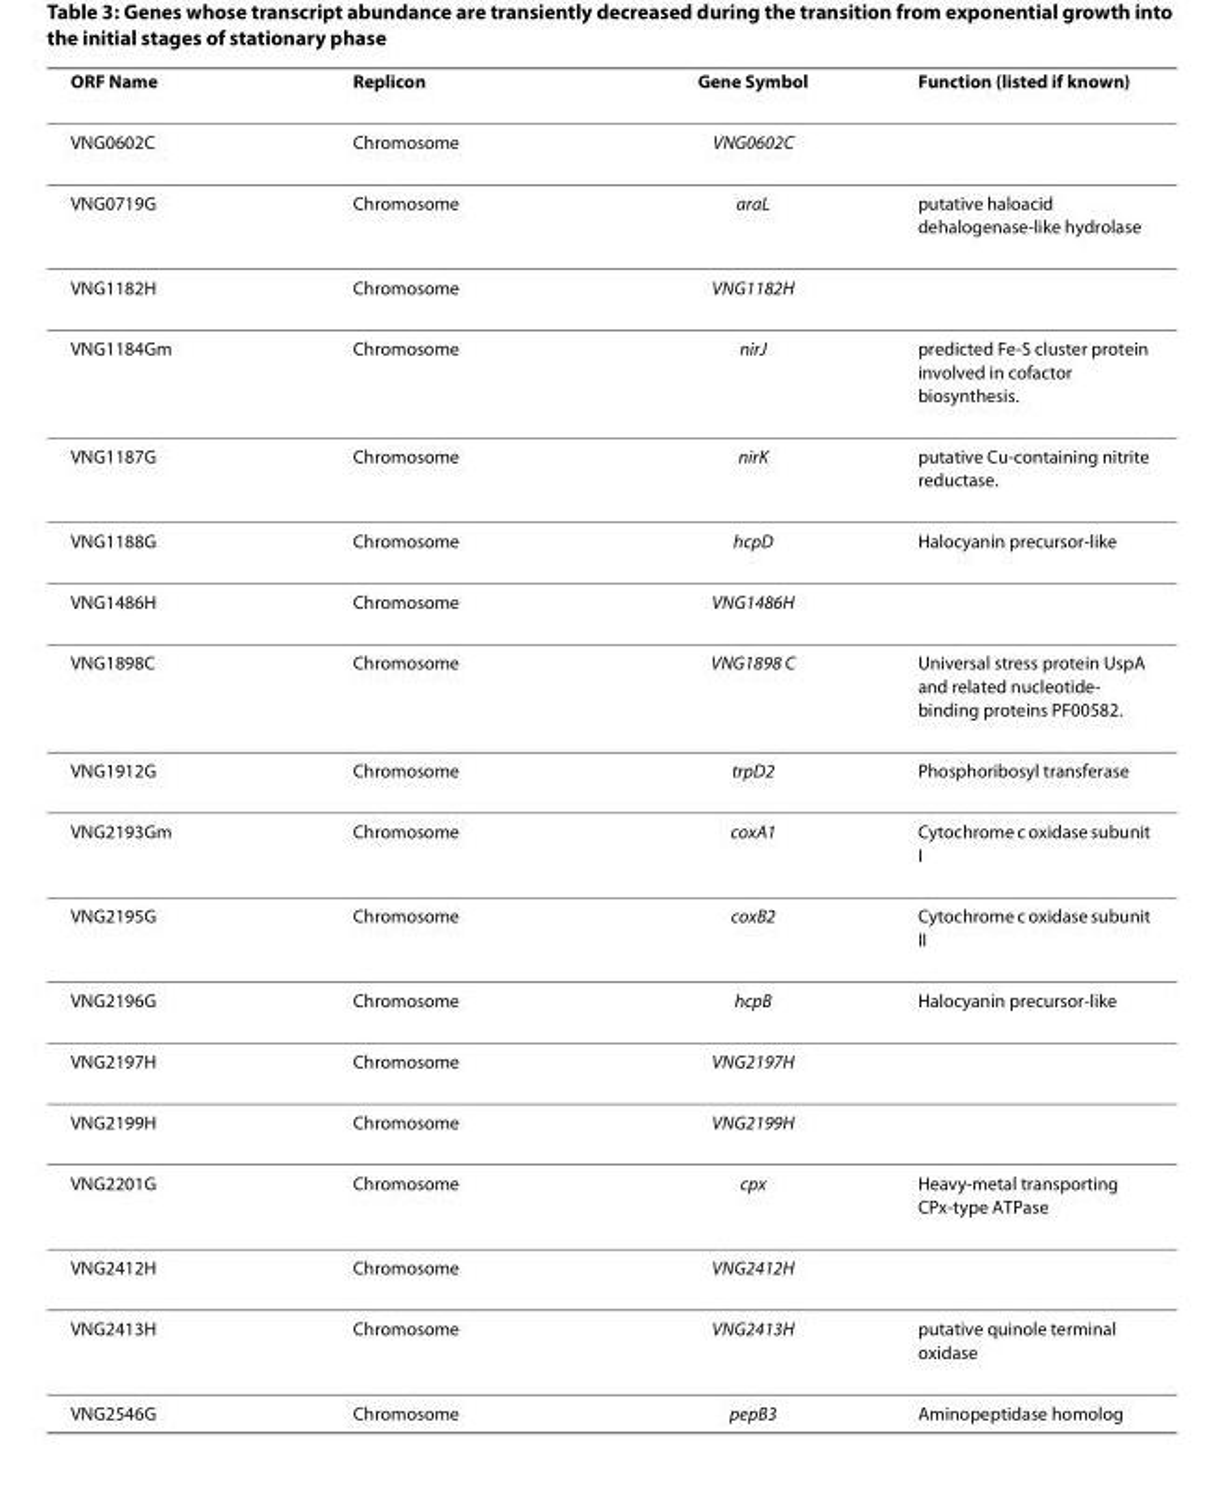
<table><thead><tr><td>ORF Name</td><td>Replicon</td><td>Gene Symbol</td><td>Function (listed if known)</td></tr></thead><tbody><tr><td>VNG0602C</td><td>Chromosome</td><td>VNG0602C</td><td></td></tr><tr><td>VNG0719G</td><td>Chromosome</td><td>araL</td><td>putative haloacid dehalogenase-like hydrolase</td></tr><tr><td>VNG1182H</td><td>Chromosome</td><td>VNG1182H</td><td></td></tr><tr><td>VNG1184Gm</td><td>Chromosome</td><td>nirJ</td><td>predicted Fe-S cluster protein involved in cofactor biosynthesis.</td></tr><tr><td>VNG1187G</td><td>Chromosome</td><td>nirK</td><td>putative Cu-containing nitrite reductase.</td></tr><tr><td>VNG1188G</td><td>Chromosome</td><td>hcpD</td><td>Halocyanin precursor-like</td></tr><tr><td>VNG1486H</td><td>Chromosome</td><td>VNG1486H</td><td></td></tr><tr><td>VNG1898C</td><td>Chromosome</td><td>VNG1898 C</td><td>Universal stress protein UspA and related nucleotide- binding proteins PF00582.</td></tr><tr><td>VNG1912G</td><td>Chromosome</td><td>trpD2</td><td>Phosphoribosyl transferase</td></tr><tr><td>VNG2193Gm</td><td>Chromosome</td><td>coxA1</td><td>Cytochrome c oxidase subunit I</td></tr><tr><td>VNG2195G</td><td>Chromosome</td><td>coxB2</td><td>Cytochrome c oxidase subunit II</td></tr><tr><td>VNG2196G</td><td>Chromosome</td><td>hcpB</td><td>Halocyanin precursor-like</td></tr><tr><td>VNG2197H</td><td>Chromosome</td><td>VNG2197H</td><td></td></tr><tr><td>VNG2199H</td><td>Chromosome</td><td>VNG2199H</td><td></td></tr><tr><td>VNG2201G</td><td>Chromosome</td><td>cpx</td><td>Heavy-metal transporting CPx-type ATPase</td></tr><tr><td>VNG2412H</td><td>Chromosome</td><td>VNG2412H</td><td></td></tr><tr><td>VNG2413H</td><td>Chromosome</td><td>VNG2413H</td><td>putative quinole terminal oxidase</td></tr><tr><td>VNG2546G</td><td>Chromosome</td><td>pepB3</td><td>Aminopeptidase homolog</td></tr></tbody></table>